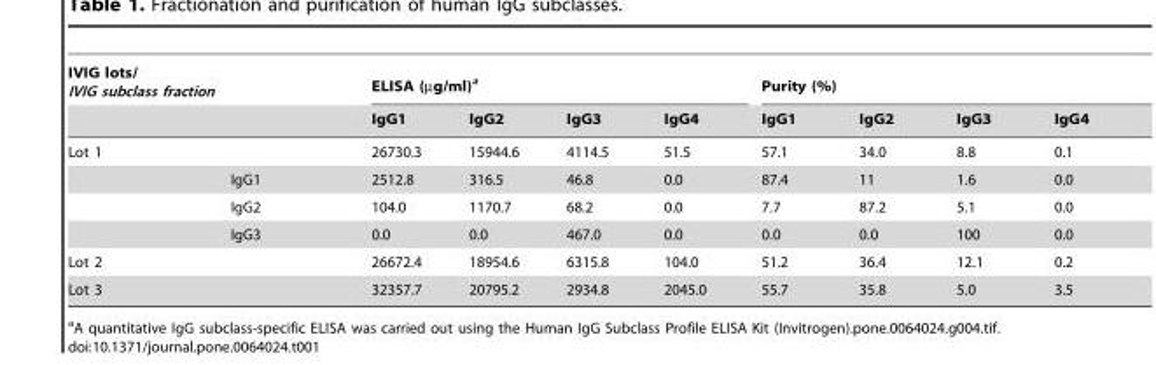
<table><thead><tr><td colspan="2">IVIG lots/ IVIG subclass fraction</td><td colspan="4">ELISA (µg/ml)<sup>a</sup></td><td colspan="4">Purity (%)</td></tr><tr><td></td><td></td><td>IgG1</td><td>IgG2</td><td>IgG3</td><td>IgG4</td><td>IgG1</td><td>IgG2</td><td>IgG3</td><td>IgG4</td></tr></thead><tbody><tr><td rowspan="4">Lot 1</td><td></td><td>26730.3</td><td>15944.6</td><td>4114.5</td><td>51.5</td><td>57.1</td><td>34.0</td><td>8.8</td><td>0.1</td></tr><tr><td>IgG1</td><td>2512.8</td><td>316.5</td><td>46.8</td><td>0.0</td><td>87.4</td><td>11</td><td>1.6</td><td>0.0</td></tr><tr><td>IgG2</td><td>104.0</td><td>1170.7</td><td>68.2</td><td>0.0</td><td>7.7</td><td>87.2</td><td>5.1</td><td>0.0</td></tr><tr><td>IgG3</td><td>0.0</td><td>0.0</td><td>467.0</td><td>0.0</td><td>0.0</td><td>0.0</td><td>100</td><td>0.0</td></tr><tr><td>Lot 2</td><td></td><td>26672.4</td><td>18954.6</td><td>6315.8</td><td>104.0</td><td>51.2</td><td>36.4</td><td>12.1</td><td>0.2</td></tr><tr><td>Lot 3</td><td></td><td>32357.7</td><td>20795.2</td><td>2934.8</td><td>2045.0</td><td>55.7</td><td>35.8</td><td>5.0</td><td>3.5</td></tr></tbody></table>